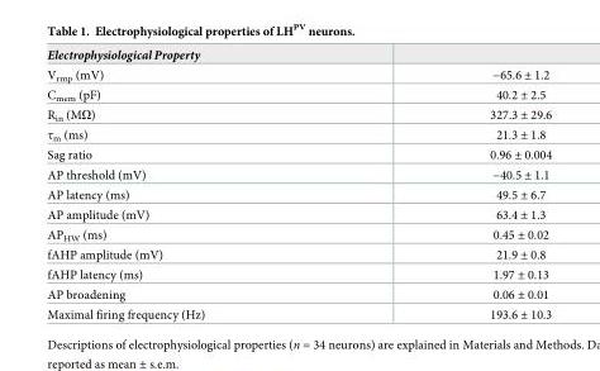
<table><thead><tr><td>Electrophysiological Property</td><td></td></tr></thead><tbody><tr><td>V<sub>rmp</sub> (mV)</td><td>−65.6 ± 1.2</td></tr><tr><td>C<sub>mem</sub> (pF)</td><td>40.2 ± 2.5</td></tr><tr><td>R<sub>in</sub> (MΩ)</td><td>327.3 ± 29.6</td></tr><tr><td>τ<sub>m</sub> (ms)</td><td>21.3 ± 1.8</td></tr><tr><td>Sag ratio</td><td>0.96 ± 0.004</td></tr><tr><td>AP threshold (mV)</td><td>−40.5 ± 1.1</td></tr><tr><td>AP latency (ms)</td><td>49.5 ± 6.7</td></tr><tr><td>AP amplitude (mV)</td><td>63.4 ± 1.3</td></tr><tr><td>AP<sub>HW</sub> (ms)</td><td>0.45 ± 0.02</td></tr><tr><td>fAHP amplitude (mV)</td><td>21.9 ± 0.8</td></tr><tr><td>fAHP latency (ms)</td><td>1.97 ± 0.13</td></tr><tr><td>AP broadening</td><td>0.06 ± 0.01</td></tr><tr><td>Maximal firing frequency (Hz)</td><td>193.6 ± 10.3</td></tr></tbody></table>